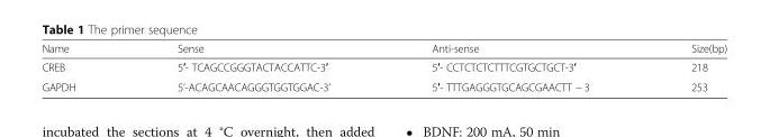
<table><thead><tr><td>Name</td><td>Sense</td><td>Anti-sense</td><td>Size(bp)</td></tr></thead><tbody><tr><td>CREB</td><td>5′- TCAGCCGGGTACTACCATTC-3′</td><td>5′- CCTCTCTCTTTCGTGCTGCT-3′</td><td>218</td></tr><tr><td>GAPDH</td><td>5‘-ACAGCAACAGGGTGGTGGAC-3’</td><td>5′- TTTGAGGGTGCAGCGAACTT − 3</td><td>253</td></tr></tbody></table>